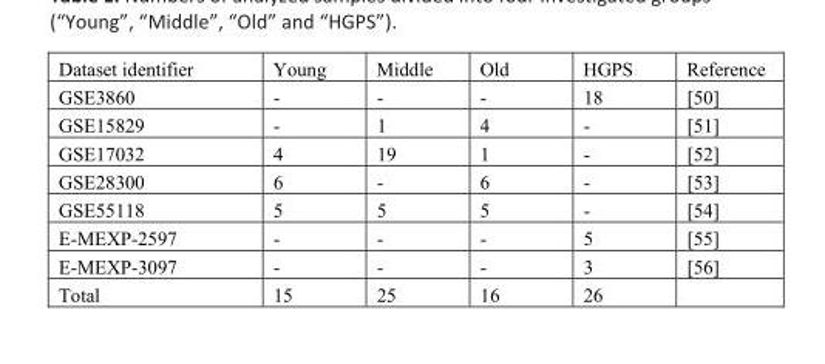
<table><thead><tr><td>Dataset identifier</td><td>Young</td><td>Middle</td><td>Old</td><td>HGPS</td><td>Reference</td></tr></thead><tbody><tr><td>GSE3860</td><td>-</td><td>-</td><td>-</td><td>18</td><td>[50]</td></tr><tr><td>GSE15829</td><td>-</td><td>1</td><td>4</td><td>-</td><td>[51]</td></tr><tr><td>GSE17032</td><td>4</td><td>19</td><td>1</td><td>-</td><td>[52]</td></tr><tr><td>GSE28300</td><td>6</td><td>-</td><td>6</td><td>-</td><td>[53]</td></tr><tr><td>GSE55118</td><td>5</td><td>5</td><td>5</td><td>-</td><td>[54]</td></tr><tr><td>E-MEXP-2597</td><td>-</td><td>-</td><td>-</td><td>5</td><td>[55]</td></tr><tr><td>E-MEXP-3097</td><td>-</td><td>-</td><td>-</td><td>3</td><td>[56]</td></tr><tr><td>Total</td><td>15</td><td>25</td><td>16</td><td>26</td><td></td></tr></tbody></table>